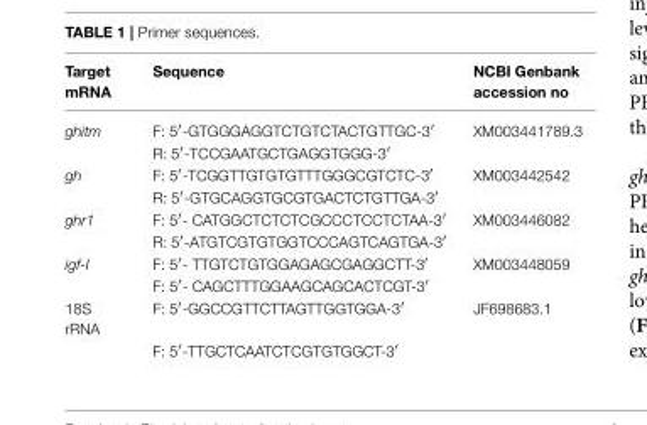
<table><thead><tr><td>Target mRNA</td><td>Sequence</td><td>NCBI Genbank accession no</td></tr></thead><tbody><tr><td rowspan="2">ghitm</td><td>F: 5′-GTGGGAGGTCTGTCTACTGTTGC-3′</td><td>XM003441789.3</td></tr><tr><td>R: 5′-TCCGAATGCTGAGGTGGG-3′</td><td></td></tr><tr><td rowspan="2">gh</td><td>F: 5′-TCGGTTGTGTGTTTGGGCGTCTC-3′</td><td>XM003442542</td></tr><tr><td>R: 5′-GTGCAGGTGCGTGACTCTGTTGA-3′</td><td></td></tr><tr><td rowspan="2">ghr1</td><td>F: 5′- CATGGCTCTCTCGCCCTCCTCTAA-3′</td><td>XM003446082</td></tr><tr><td>R: 5′-ATGTCGTGTGGTCCCAGTCAGTGA-3′</td><td></td></tr><tr><td rowspan="2">igf-I</td><td>F: 5′- TTGTCTGTGGAGAGCGAGGCTT-3′</td><td>XM003448059</td></tr><tr><td>F: 5′- CAGCTTTGGAAGCAGCACTCGT-3′</td><td></td></tr><tr><td rowspan="2">18S rRNA</td><td>F: 5′-GGCCGTTCTTAGTTGGTGGA-3′</td><td>JF698683.1</td></tr><tr><td>F: 5′-TTGCTCAATCTCGTGTGGCT-3′</td><td></td></tr></tbody></table>